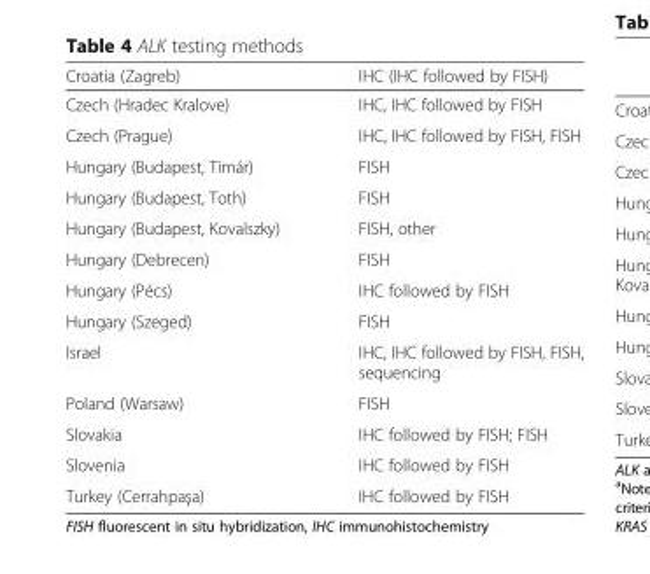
<table><thead><tr><td>Croatia (Zagreb)</td><td>IHC (IHC followed by FISH)</td></tr></thead><tbody><tr><td>Czech (Hradec Kralove)</td><td>IHC, IHC followed by FISH</td></tr><tr><td>Czech (Prague)</td><td>IHC, IHC followed by FISH, FISH</td></tr><tr><td>Hungary (Budapest, Timár)</td><td>FISH</td></tr><tr><td>Hungary (Budapest, Toth)</td><td>FISH</td></tr><tr><td>Hungary (Budapest, Kovalszky)</td><td>FISH, other</td></tr><tr><td>Hungary (Debrecen)</td><td>FISH</td></tr><tr><td>Hungary (Pécs)</td><td>IHC followed by FISH</td></tr><tr><td>Hungary (Szeged)</td><td>FISH</td></tr><tr><td>Israel</td><td>IHC, IHC followed by FISH, FISH, sequencing</td></tr><tr><td>Poland (Warsaw)</td><td>FISH</td></tr><tr><td>Slovakia</td><td>IHC followed by FISH; FISH</td></tr><tr><td>Slovenia</td><td>IHC followed by FISH</td></tr><tr><td>Turkey (Cerrahpaşa)</td><td>IHC followed by FISH</td></tr></tbody></table>